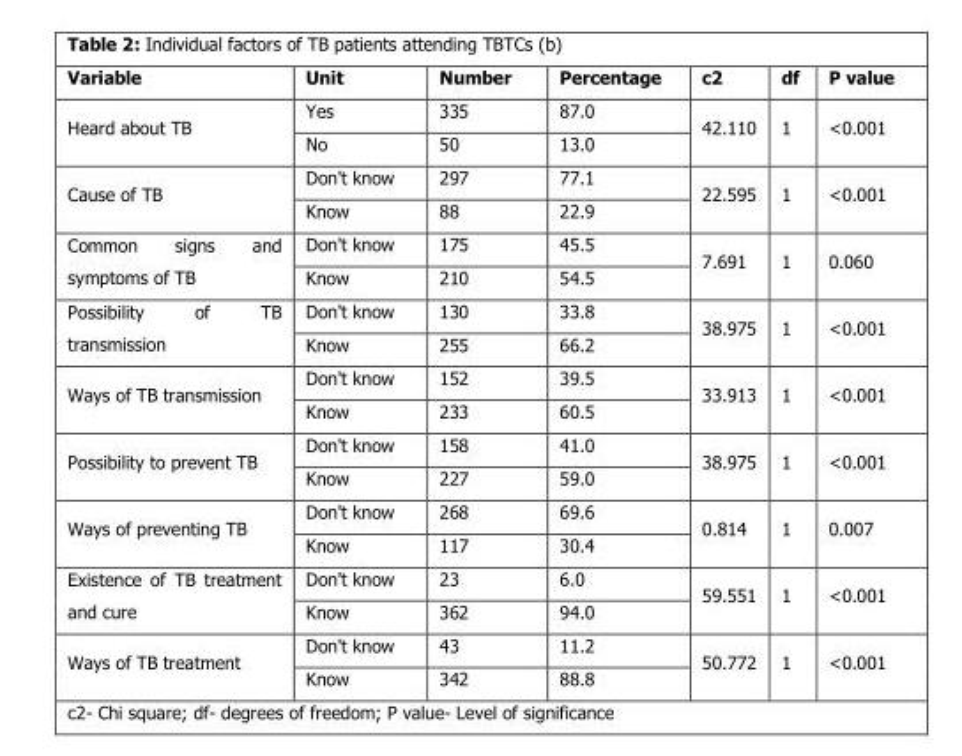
<table><thead><tr><td>Variable</td><td>Unit</td><td>Number</td><td>Percentage</td><td>c2</td><td>df</td><td>P value</td></tr></thead><tbody><tr><td rowspan="2">Heard about TB</td><td>Yes</td><td>335</td><td>87.0</td><td rowspan="2">42.110</td><td rowspan="2">1</td><td rowspan="2">&lt;0.001</td></tr><tr><td>No</td><td>50</td><td>13.0</td></tr><tr><td rowspan="2">Cause of TB</td><td>Don&#x27;t know</td><td>297</td><td>77.1</td><td rowspan="2">22.595</td><td rowspan="2">1</td><td rowspan="2">&lt;0.001</td></tr><tr><td>Know</td><td>88</td><td>22.9</td></tr><tr><td rowspan="2">Common signs and symptoms of TB</td><td>Don&#x27;t know</td><td>175</td><td>45.5</td><td rowspan="2">7.691</td><td rowspan="2">1</td><td rowspan="2">0.060</td></tr><tr><td>Know</td><td>210</td><td>54.5</td></tr><tr><td rowspan="2">Possibility of TB transmission</td><td>Don&#x27;t know</td><td>130</td><td>33.8</td><td rowspan="2">38.975</td><td rowspan="2">1</td><td rowspan="2">&lt;0.001</td></tr><tr><td>Know</td><td>255</td><td>66.2</td></tr><tr><td rowspan="2">Ways of TB transmission</td><td>Don&#x27;t know</td><td>152</td><td>39.5</td><td rowspan="2">33.913</td><td rowspan="2">1</td><td rowspan="2">&lt;0.001</td></tr><tr><td>Know</td><td>233</td><td>60.5</td></tr><tr><td rowspan="2">Possibility to prevent TB</td><td>Don&#x27;t know</td><td>158</td><td>41.0</td><td rowspan="2">38.975</td><td rowspan="2">1</td><td rowspan="2">&lt;0.001</td></tr><tr><td>Know</td><td>227</td><td>59.0</td></tr><tr><td rowspan="2">Ways of preventing TB</td><td>Don&#x27;t know</td><td>268</td><td>69.6</td><td rowspan="2">0.814</td><td rowspan="2">1</td><td rowspan="2">0.007</td></tr><tr><td>Know</td><td>117</td><td>30.4</td></tr><tr><td rowspan="2">Existence of TB treatment and cure</td><td>Don&#x27;t know</td><td>23</td><td>6.0</td><td rowspan="2">59.551</td><td rowspan="2">1</td><td rowspan="2">&lt;0.001</td></tr><tr><td>Know</td><td>362</td><td>94.0</td></tr><tr><td rowspan="2">Ways of TB treatment</td><td>Don&#x27;t know</td><td>43</td><td>11.2</td><td rowspan="2">50.772</td><td rowspan="2">1</td><td rowspan="2">&lt;0.001</td></tr><tr><td>Know</td><td>342</td><td>88.8</td></tr></tbody></table>